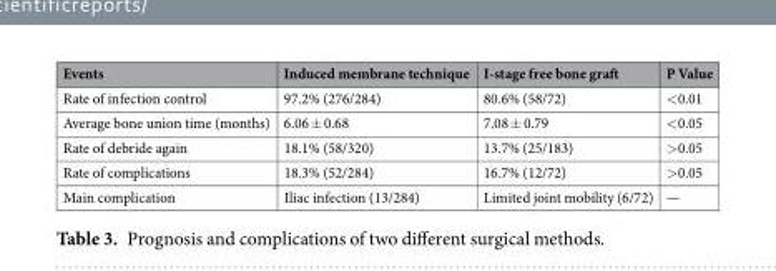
<table><thead><tr><td>Events</td><td>Induced membrane technique</td><td>I-stage free bone graft</td><td>P Value</td></tr></thead><tbody><tr><td>Rate of infection control</td><td>97.2% (276/284)</td><td>80.6% (58/72)</td><td>&lt;0.01</td></tr><tr><td>Average bone union time (months)</td><td>6.06 ± 0.68</td><td>7.08 ± 0.79</td><td>&lt;0.05</td></tr><tr><td>Rate of debride again</td><td>18.1% (58/320)</td><td>13.7% (25/183)</td><td>&gt;0.05</td></tr><tr><td>Rate of complications</td><td>18.3% (52/284)</td><td>16.7% (12/72)</td><td>&gt;0.05</td></tr><tr><td>Main complication</td><td>Iliac infection (13/284)</td><td>Limited joint mobility (6/72)</td><td>—</td></tr></tbody></table>